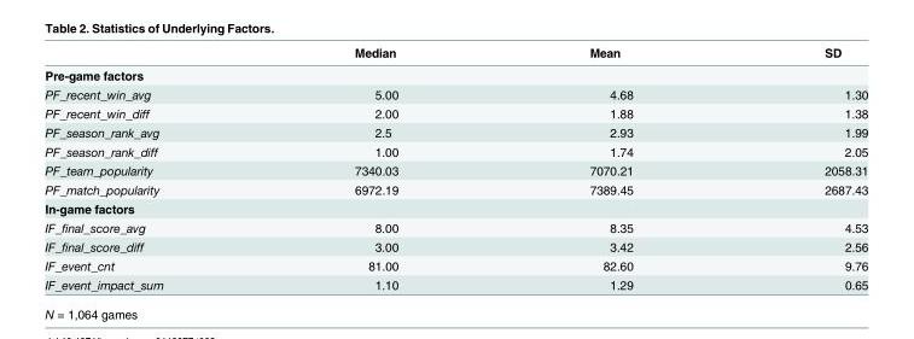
<table><thead><tr><td></td><td>Median</td><td>Mean</td><td>SD</td></tr></thead><tbody><tr><td colspan="4">Pre-game factors</td></tr><tr><td>PF_recent_win_avg</td><td>5.00</td><td>4.68</td><td>1.30</td></tr><tr><td>PF_recent_win_diff</td><td>2.00</td><td>1.88</td><td>1.38</td></tr><tr><td>PF_season_rank_avg</td><td>2.5</td><td>2.93</td><td>1.99</td></tr><tr><td>PF_season_rank_diff</td><td>1.00</td><td>1.74</td><td>2.05</td></tr><tr><td>PF_team_popularity</td><td>7340.03</td><td>7070.21</td><td>2058.31</td></tr><tr><td>PF_match_popularity</td><td>6972.19</td><td>7389.45</td><td>2687.43</td></tr><tr><td colspan="4">In-game factors</td></tr><tr><td>IF_final_score_avg</td><td>8.00</td><td>8.35</td><td>4.53</td></tr><tr><td>IF_final_score_diff</td><td>3.00</td><td>3.42</td><td>2.56</td></tr><tr><td>IF_event_cnt</td><td>81.00</td><td>82.60</td><td>9.76</td></tr><tr><td>IF_event_impact_sum</td><td>1.10</td><td>1.29</td><td>0.65</td></tr></tbody></table>